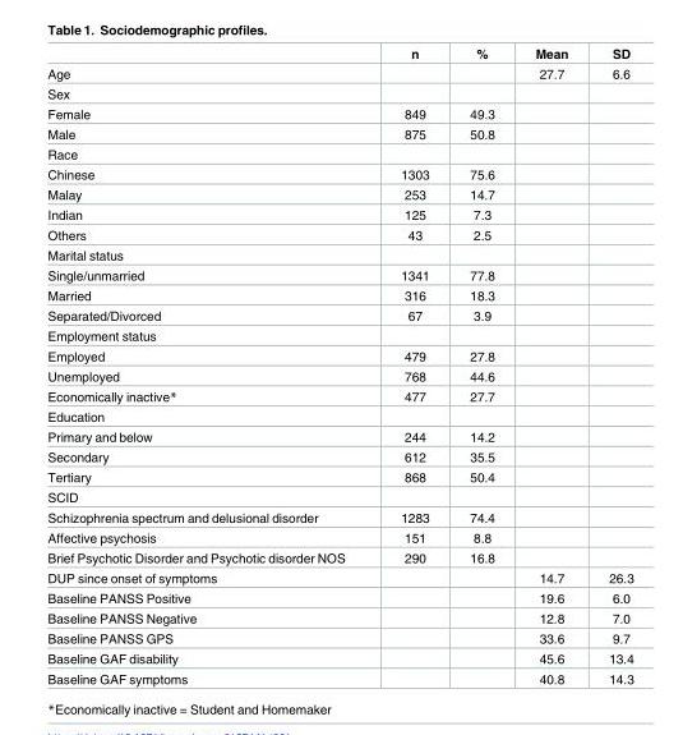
<table><thead><tr><td></td><td>n</td><td>%</td><td>Mean</td><td>SD</td></tr></thead><tbody><tr><td>Age</td><td></td><td></td><td>27.7</td><td>6.6</td></tr><tr><td colspan="5">Sex</td></tr><tr><td>Female</td><td>849</td><td>49.3</td><td></td><td></td></tr><tr><td>Male</td><td>875</td><td>50.8</td><td></td><td></td></tr><tr><td colspan="5">Race</td></tr><tr><td>Chinese</td><td>1303</td><td>75.6</td><td></td><td></td></tr><tr><td>Malay</td><td>253</td><td>14.7</td><td></td><td></td></tr><tr><td>Indian</td><td>125</td><td>7.3</td><td></td><td></td></tr><tr><td>Others</td><td>43</td><td>2.5</td><td></td><td></td></tr><tr><td colspan="5">Marital status</td></tr><tr><td>Single/unmarried</td><td>1341</td><td>77.8</td><td></td><td></td></tr><tr><td>Married</td><td>316</td><td>18.3</td><td></td><td></td></tr><tr><td>Separated/Divorced</td><td>67</td><td>3.9</td><td></td><td></td></tr><tr><td colspan="5">Employment status</td></tr><tr><td>Employed</td><td>479</td><td>27.8</td><td></td><td></td></tr><tr><td>Unemployed</td><td>768</td><td>44.6</td><td></td><td></td></tr><tr><td>Economically inactive*</td><td>477</td><td>27.7</td><td></td><td></td></tr><tr><td colspan="5">Education</td></tr><tr><td>Primary and below</td><td>244</td><td>14.2</td><td></td><td></td></tr><tr><td>Secondary</td><td>612</td><td>35.5</td><td></td><td></td></tr><tr><td>Tertiary</td><td>868</td><td>50.4</td><td></td><td></td></tr><tr><td colspan="5">SCID</td></tr><tr><td>Schizophrenia spectrum and delusional disorder</td><td>1283</td><td>74.4</td><td></td><td></td></tr><tr><td>Affective psychosis</td><td>151</td><td>8.8</td><td></td><td></td></tr><tr><td>Brief Psychotic Disorder and Psychotic disorder NOS</td><td>290</td><td>16.8</td><td></td><td></td></tr><tr><td>DUP since onset of symptoms</td><td></td><td></td><td>14.7</td><td>26.3</td></tr><tr><td>Baseline PANSS Positive</td><td></td><td></td><td>19.6</td><td>6.0</td></tr><tr><td>Baseline PANSS Negative</td><td></td><td></td><td>12.8</td><td>7.0</td></tr><tr><td>Baseline PANSS GPS</td><td></td><td></td><td>33.6</td><td>9.7</td></tr><tr><td>Baseline GAF disability</td><td></td><td></td><td>45.6</td><td>13.4</td></tr><tr><td>Baseline GAF symptoms</td><td></td><td></td><td>40.8</td><td>14.3</td></tr></tbody></table>